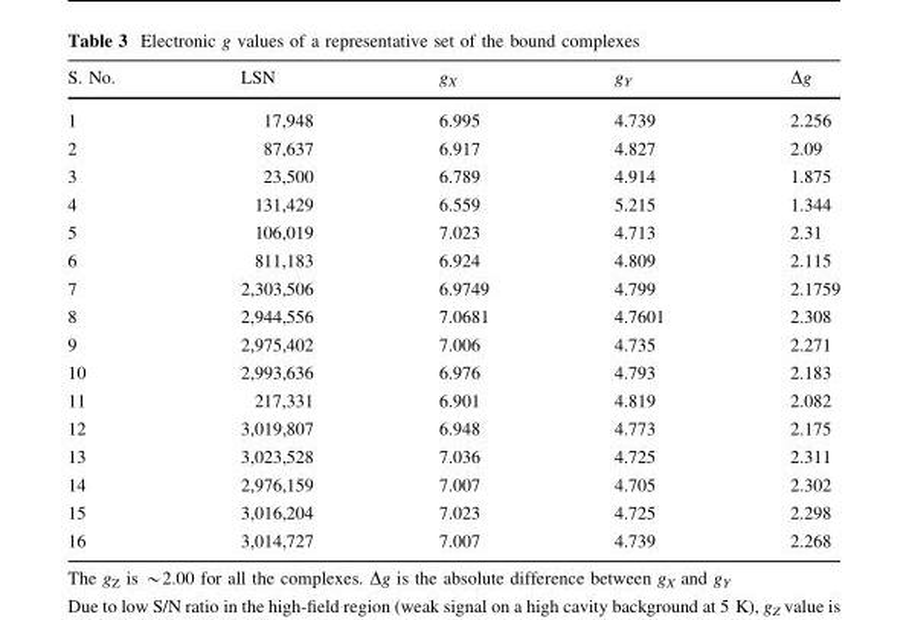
<table><thead><tr><td>S. No.</td><td>LSN</td><td>g<sub>X</sub></td><td>g<sub>Y</sub></td><td>Δg</td></tr></thead><tbody><tr><td>1</td><td>17,948</td><td>6.995</td><td>4.739</td><td>2.256</td></tr><tr><td>2</td><td>87,637</td><td>6.917</td><td>4.827</td><td>2.09</td></tr><tr><td>3</td><td>23,500</td><td>6.789</td><td>4.914</td><td>1.875</td></tr><tr><td>4</td><td>131,429</td><td>6.559</td><td>5.215</td><td>1.344</td></tr><tr><td>5</td><td>106,019</td><td>7.023</td><td>4.713</td><td>2.31</td></tr><tr><td>6</td><td>811,183</td><td>6.924</td><td>4.809</td><td>2.115</td></tr><tr><td>7</td><td>2,303,506</td><td>6.9749</td><td>4.799</td><td>2.1759</td></tr><tr><td>8</td><td>2,944,556</td><td>7.0681</td><td>4.7601</td><td>2.308</td></tr><tr><td>9</td><td>2,975,402</td><td>7.006</td><td>4.735</td><td>2.271</td></tr><tr><td>10</td><td>2,993,636</td><td>6.976</td><td>4.793</td><td>2.183</td></tr><tr><td>11</td><td>217,331</td><td>6.901</td><td>4.819</td><td>2.082</td></tr><tr><td>12</td><td>3,019,807</td><td>6.948</td><td>4.773</td><td>2.175</td></tr><tr><td>13</td><td>3,023,528</td><td>7.036</td><td>4.725</td><td>2.311</td></tr><tr><td>14</td><td>2,976,159</td><td>7.007</td><td>4.705</td><td>2.302</td></tr><tr><td>15</td><td>3,016,204</td><td>7.023</td><td>4.725</td><td>2.298</td></tr><tr><td>16</td><td>3,014,727</td><td>7.007</td><td>4.739</td><td>2.268</td></tr></tbody></table>